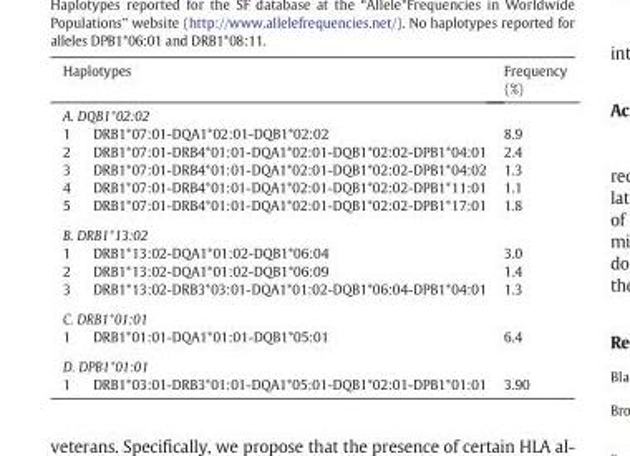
<table><thead><tr><td colspan="2">Haplotypes</td><td>Frequency (%)</td></tr><tr><td colspan="3">A. DQB1*02:02</td></tr><tr><td>1</td><td>DRB1*07:01-DQA1*02:01-DQB1*02:02</td><td>8.9</td></tr></thead><tbody><tr><td>2</td><td>DRB1*07:01-DRB4*01:01-DQA1*02:01-DQB1*02:02-DPB1*04:01</td><td>2.4</td></tr><tr><td>3</td><td>DRB1*07:01-DRB4*01:01-DQA1*02:01-DQB1*02:02-DPB1*04:02</td><td>1.3</td></tr><tr><td>4</td><td>DRB1*07:01-DRB4*01:01-DQA1*02:01-DQB1*02:02-DPB1*11:01</td><td>1.1</td></tr><tr><td>5</td><td>DRB1*07:01-DRB4*01:01-DQA1*02:01-DQB1*02:02-DPB1*17:01</td><td>1.8</td></tr><tr><td colspan="3">B. DRB1*13:02</td></tr><tr><td>1</td><td>DRB1*13:02-DQA1*01:02-DQB1*06:04</td><td>3.0</td></tr><tr><td>2</td><td>DRB1*13:02-DQA1*01:02-DQB1*06:09</td><td>1.4</td></tr><tr><td>3</td><td>DRB1*13:02-DRB3*03:01-DQA1*01:02-DQB1*06:04-DPB1*04:01</td><td>1.3</td></tr><tr><td colspan="3">C. DRB1*01:01</td></tr><tr><td>1</td><td>DRB1*01:01-DQA1*01:01-DQB1*05:01</td><td>6.4</td></tr><tr><td colspan="3">D. DPB1*01:01</td></tr><tr><td>1</td><td>DRB1*03:01-DRB3*01:01-DQA1*05:01-DQB1*02:01-DPB1*01:01</td><td>3.90</td></tr></tbody></table>